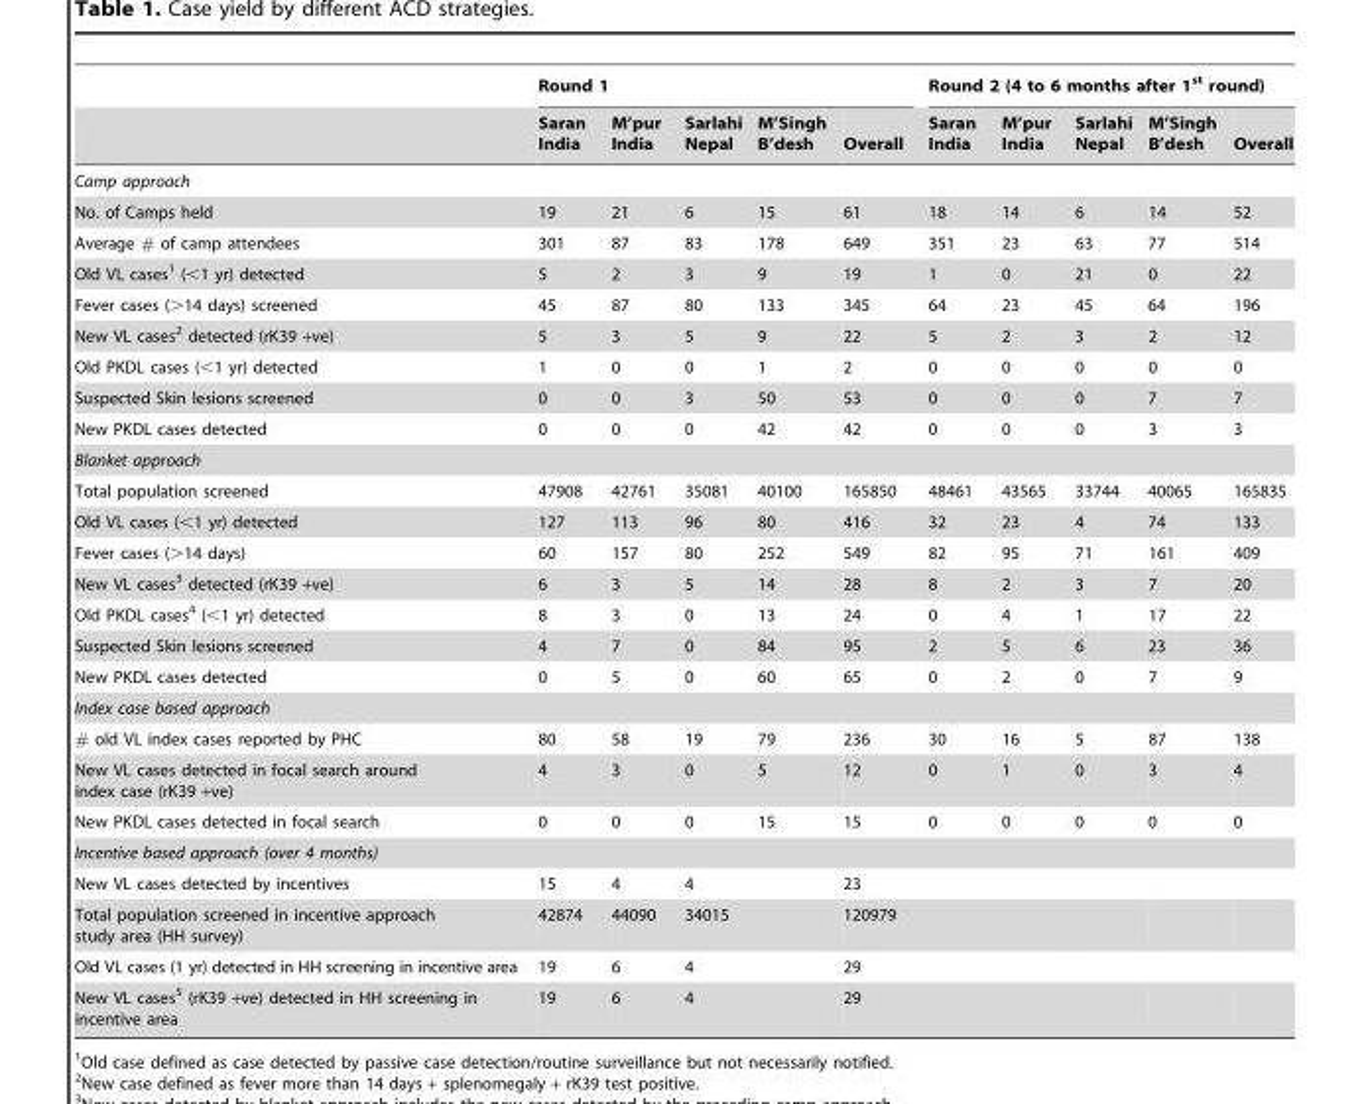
<table><thead><tr><td rowspan="2"></td><td colspan="5">Round 1</td><td colspan="5">Round 2 (4 to 6 months after 1<sup>st</sup> round)</td></tr><tr><td>Saran India</td><td>M’pur India</td><td>Sarlahi Nepal</td><td>M’Singh B’desh</td><td>Overall</td><td>Saran India</td><td>M’pur India</td><td>Sarlahi Nepal</td><td>M’Singh B’desh</td><td>Overall</td></tr></thead><tbody><tr><td colspan="11">Camp approach</td></tr><tr><td>No. of Camps held</td><td>19</td><td>21</td><td>6</td><td>15</td><td>61</td><td>18</td><td>14</td><td>6</td><td>14</td><td>52</td></tr><tr><td>Average # of camp attendees</td><td>301</td><td>87</td><td>83</td><td>178</td><td>649</td><td>351</td><td>23</td><td>63</td><td>77</td><td>514</td></tr><tr><td>Old VL cases<sup>1</sup> (&lt;1 yr) detected</td><td>5</td><td>2</td><td>3</td><td>9</td><td>19</td><td>1</td><td>0</td><td>21</td><td>0</td><td>22</td></tr><tr><td>Fever cases (&gt;14 days) screened</td><td>45</td><td>87</td><td>80</td><td>133</td><td>345</td><td>64</td><td>23</td><td>45</td><td>64</td><td>196</td></tr><tr><td>New VL cases<sup>2</sup> detected (rK39 +ve)</td><td>5</td><td>3</td><td>5</td><td>9</td><td>22</td><td>5</td><td>2</td><td>3</td><td>2</td><td>12</td></tr><tr><td>Old PKDL cases (&lt;1 yr) detected</td><td>1</td><td>0</td><td>0</td><td>1</td><td>2</td><td>0</td><td>0</td><td>0</td><td>0</td><td>0</td></tr><tr><td>Suspected Skin lesions screened</td><td>0</td><td>0</td><td>3</td><td>50</td><td>53</td><td>0</td><td>0</td><td>0</td><td>7</td><td>7</td></tr><tr><td>New PKDL cases detected</td><td>0</td><td>0</td><td>0</td><td>42</td><td>42</td><td>0</td><td>0</td><td>0</td><td>3</td><td>3</td></tr><tr><td colspan="11">Blanket approach</td></tr><tr><td>Total population screened</td><td>47908</td><td>42761</td><td>35081</td><td>40100</td><td>165850</td><td>48461</td><td>43565</td><td>33744</td><td>40065</td><td>165835</td></tr><tr><td>Old VL cases (&lt;1 yr) detected</td><td>127</td><td>113</td><td>96</td><td>80</td><td>416</td><td>32</td><td>23</td><td>4</td><td>74</td><td>133</td></tr><tr><td>Fever cases (&gt;14 days)</td><td>60</td><td>157</td><td>80</td><td>252</td><td>549</td><td>82</td><td>95</td><td>71</td><td>161</td><td>409</td></tr><tr><td>New VL cases<sup>3</sup> detected (rK39 +ve)</td><td>6</td><td>3</td><td>5</td><td>14</td><td>28</td><td>8</td><td>2</td><td>3</td><td>7</td><td>20</td></tr><tr><td>Old PKDL cases<sup>4</sup> (&lt;1 yr) detected</td><td>8</td><td>3</td><td>0</td><td>13</td><td>24</td><td>0</td><td>4</td><td>1</td><td>17</td><td>22</td></tr><tr><td>Suspected Skin lesions screened</td><td>4</td><td>7</td><td>0</td><td>84</td><td>95</td><td>2</td><td>5</td><td>6</td><td>23</td><td>36</td></tr><tr><td>New PKDL cases detected</td><td>0</td><td>5</td><td>0</td><td>60</td><td>65</td><td>0</td><td>2</td><td>0</td><td>7</td><td>9</td></tr><tr><td colspan="11">Index case based approach</td></tr><tr><td># old VL index cases reported by PHC</td><td>80</td><td>58</td><td>19</td><td>79</td><td>236</td><td>30</td><td>16</td><td>5</td><td>87</td><td>138</td></tr><tr><td>New VL cases detected in focal search around index case (rK39 +ve)</td><td>4</td><td>3</td><td>0</td><td>5</td><td>12</td><td>0</td><td>1</td><td>0</td><td>3</td><td>4</td></tr><tr><td>New PKDL cases detected in focal search</td><td>0</td><td>0</td><td>0</td><td>15</td><td>15</td><td>0</td><td>0</td><td>0</td><td>0</td><td>0</td></tr><tr><td colspan="11">Incentive based approach (over 4 months)</td></tr><tr><td>New VL cases detected by incentives</td><td>15</td><td>4</td><td>4</td><td></td><td>23</td><td></td><td></td><td></td><td></td><td></td></tr><tr><td>Total population screened in incentive approach study area (HH survey)</td><td>42874</td><td>44090</td><td>34015</td><td></td><td>120979</td><td></td><td></td><td></td><td></td><td></td></tr><tr><td>Old VL cases (1 yr) detected in HH screening in incentive area</td><td>19</td><td>6</td><td>4</td><td></td><td>29</td><td></td><td></td><td></td><td></td><td></td></tr><tr><td>New VL cases<sup>5</sup> (rK39 +ve) detected in HH screening in incentive area</td><td>19</td><td>6</td><td>4</td><td></td><td>29</td><td></td><td></td><td></td><td></td><td></td></tr></tbody></table>